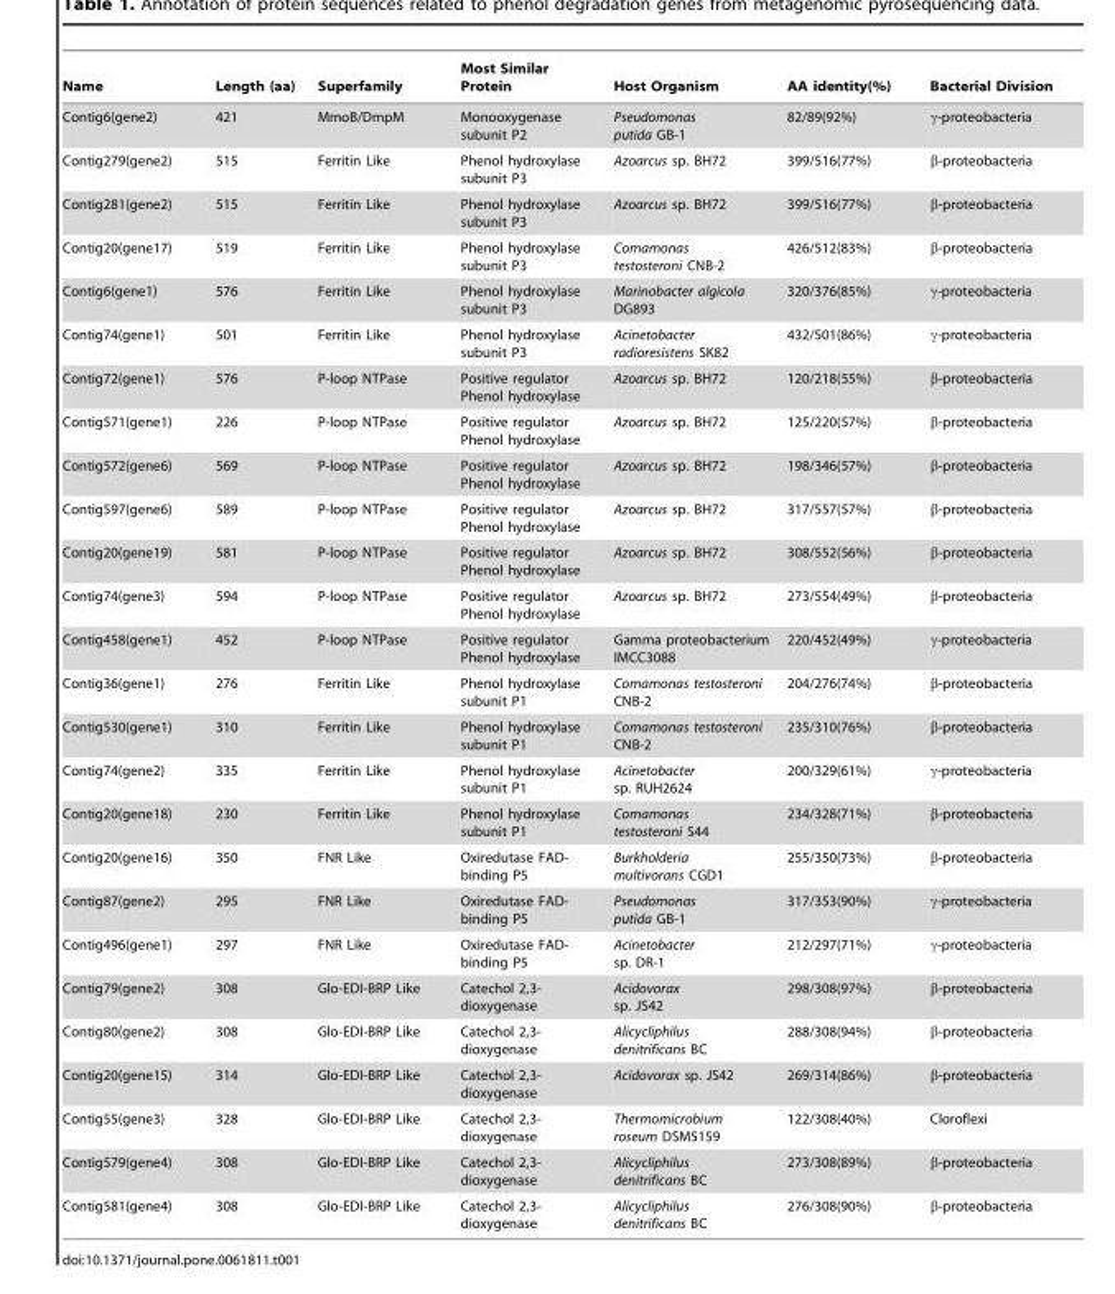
<table><thead><tr><td>Name</td><td>Length (aa)</td><td>Superfamily</td><td>Most Similar Protein</td><td>Host Organism</td><td>AA identity(%)</td><td>Bacterial Division</td></tr></thead><tbody><tr><td>Contig6(gene2)</td><td>421</td><td>MmoB/DmpM</td><td>Monooxygenase subunit P2</td><td>Pseudomonas putida GB-1</td><td>82/89(92%)</td><td>γ-proteobacteria</td></tr><tr><td>Contig279(gene2)</td><td>515</td><td>Ferritin Like</td><td>Phenol hydroxylase subunit P3</td><td>Azoarcus sp. BH72</td><td>399/516(77%)</td><td>β-proteobacteria</td></tr><tr><td>Contig281(gene2)</td><td>515</td><td>Ferritin Like</td><td>Phenol hydroxylase subunit P3</td><td>Azoarcus sp. BH72</td><td>399/516(77%)</td><td>β-proteobacteria</td></tr><tr><td>Contig20(gene17)</td><td>519</td><td>Ferritin Like</td><td>Phenol hydroxylase subunit P3</td><td>Comamonas testosteroni CNB-2</td><td>426/512(83%)</td><td>β-proteobacteria</td></tr><tr><td>Contig6(gene1)</td><td>576</td><td>Ferritin Like</td><td>Phenol hydroxylase subunit P3</td><td>Marinobacter algicola DG893</td><td>320/376(85%)</td><td>γ-proteobacteria</td></tr><tr><td>Contig74(gene1)</td><td>501</td><td>Ferritin Like</td><td>Phenol hydroxylase subunit P3</td><td>Acinetobacter radioresistens SK82</td><td>432/501(86%)</td><td>γ-proteobacteria</td></tr><tr><td>Contig72(gene1)</td><td>576</td><td>P-loop NTPase</td><td>Positive regulator Phenol hydroxylase</td><td>Azoarcus sp. BH72</td><td>120/218(55%)</td><td>β-proteobacteria</td></tr><tr><td>Contig571(gene1)</td><td>226</td><td>P-loop NTPase</td><td>Positive regulator Phenol hydroxylase</td><td>Azoarcus sp. BH72</td><td>125/220(57%)</td><td>β-proteobacteria</td></tr><tr><td>Contig572(gene6)</td><td>569</td><td>P-loop NTPase</td><td>Positive regulator Phenol hydroxylase</td><td>Azoarcus sp. BH72</td><td>198/346(57%)</td><td>β-proteobacteria</td></tr><tr><td>Contig597(gene6)</td><td>589</td><td>P-loop NTPase</td><td>Positive regulator Phenol hydroxylase</td><td>Azoarcus sp. BH72</td><td>317/557(57%)</td><td>β-proteobacteria</td></tr><tr><td>Contig20(gene19)</td><td>581</td><td>P-loop NTPase</td><td>Positive regulator Phenol hydroxylase</td><td>Azoarcus sp. BH72</td><td>308/552(56%)</td><td>β-proteobacteria</td></tr><tr><td>Contig74(gene3)</td><td>594</td><td>P-loop NTPase</td><td>Positive regulator Phenol hydroxylase</td><td>Azoarcus sp. BH72</td><td>273/554(49%)</td><td>β-proteobacteria</td></tr><tr><td>Contig458(gene1)</td><td>452</td><td>P-loop NTPase</td><td>Positive regulator Phenol hydroxylase</td><td>Gamma proteobacterium IMCC3088</td><td>220/452(49%)</td><td>γ-proteobacteria</td></tr><tr><td>Contig36(gene1)</td><td>276</td><td>Ferritin Like</td><td>Phenol hydroxylase subunit P1</td><td>Comamonas testosteroni CNB-2</td><td>204/276(74%)</td><td>β-proteobacteria</td></tr><tr><td>Contig530(gene1)</td><td>310</td><td>Ferritin Like</td><td>Phenol hydroxylase subunit P1</td><td>Comamonas testosteroni CNB-2</td><td>235/310(76%)</td><td>β-proteobacteria</td></tr><tr><td>Contig74(gene2)</td><td>335</td><td>Ferritin Like</td><td>Phenol hydroxylase subunit P1</td><td>Acinetobacter sp. RUH2624</td><td>200/329(61%)</td><td>γ-proteobacteria</td></tr><tr><td>Contig20(gene18)</td><td>230</td><td>Ferritin Like</td><td>Phenol hydroxylase subunit P1</td><td>Comamonas testosteroni S44</td><td>234/328(71%)</td><td>β-proteobacteria</td></tr><tr><td>Contig20(gene16)</td><td>350</td><td>FNR Like</td><td>Oxiredutase FAD- binding P5</td><td>Burkholderia multivorans CGD1</td><td>255/350(73%)</td><td>β-proteobacteria</td></tr><tr><td>Contig87(gene2)</td><td>295</td><td>FNR Like</td><td>Oxiredutase FAD- binding P5</td><td>Pseudomonas putida GB-1</td><td>317/353(90%)</td><td>γ-proteobacteria</td></tr><tr><td>Contig496(gene1)</td><td>297</td><td>FNR Like</td><td>Oxiredutase FAD- binding P5</td><td>Acinetobacter sp. DR-1</td><td>212/297(71%)</td><td>γ-proteobacteria</td></tr><tr><td>Contig79(gene2)</td><td>308</td><td>Glo-EDI-BRP Like</td><td>Catechol 2,3- dioxygenase</td><td>Acidovorax sp. JS42</td><td>298/308(97%)</td><td>β-proteobacteria</td></tr><tr><td>Contig80(gene2)</td><td>308</td><td>Glo-EDI-BRP Like</td><td>Catechol 2,3- dioxygenase</td><td>Alicycliphilus denitrificans BC</td><td>288/308(94%)</td><td>β-proteobacteria</td></tr><tr><td>Contig20(gene15)</td><td>314</td><td>Glo-EDI-BRP Like</td><td>Catechol 2,3- dioxygenase</td><td>Acidovorax sp. JS42</td><td>269/314(86%)</td><td>β-proteobacteria</td></tr><tr><td>Contig55(gene3)</td><td>328</td><td>Glo-EDI-BRP Like</td><td>Catechol 2,3- dioxygenase</td><td>Thermomicrobium roseum DSM5159</td><td>122/308(40%)</td><td>Cloroflexi</td></tr><tr><td>Contig579(gene4)</td><td>308</td><td>Glo-EDI-BRP Like</td><td>Catechol 2,3- dioxygenase</td><td>Alicycliphilus denitrificans BC</td><td>273/308(89%)</td><td>β-proteobacteria</td></tr><tr><td>Contig581(gene4)</td><td>308</td><td>Glo-EDI-BRP Like</td><td>Catechol 2,3- dioxygenase</td><td>Alicycliphilus denitrificans BC</td><td>276/308(90%)</td><td>β-proteobacteria</td></tr></tbody></table>